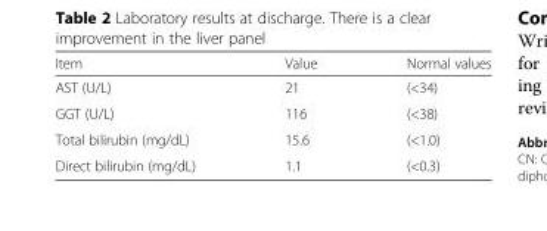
<table><thead><tr><td>Item</td><td>Value</td><td>Normal values</td></tr></thead><tbody><tr><td>AST (U/L)</td><td>21</td><td>(&lt;34)</td></tr><tr><td>GGT (U/L)</td><td>116</td><td>(&lt;38)</td></tr><tr><td>Total bilirubin (mg/dL)</td><td>15.6</td><td>(&lt;1.0)</td></tr><tr><td>Direct bilirubin (mg/dL)</td><td>1.1</td><td>(&lt;0.3)</td></tr></tbody></table>